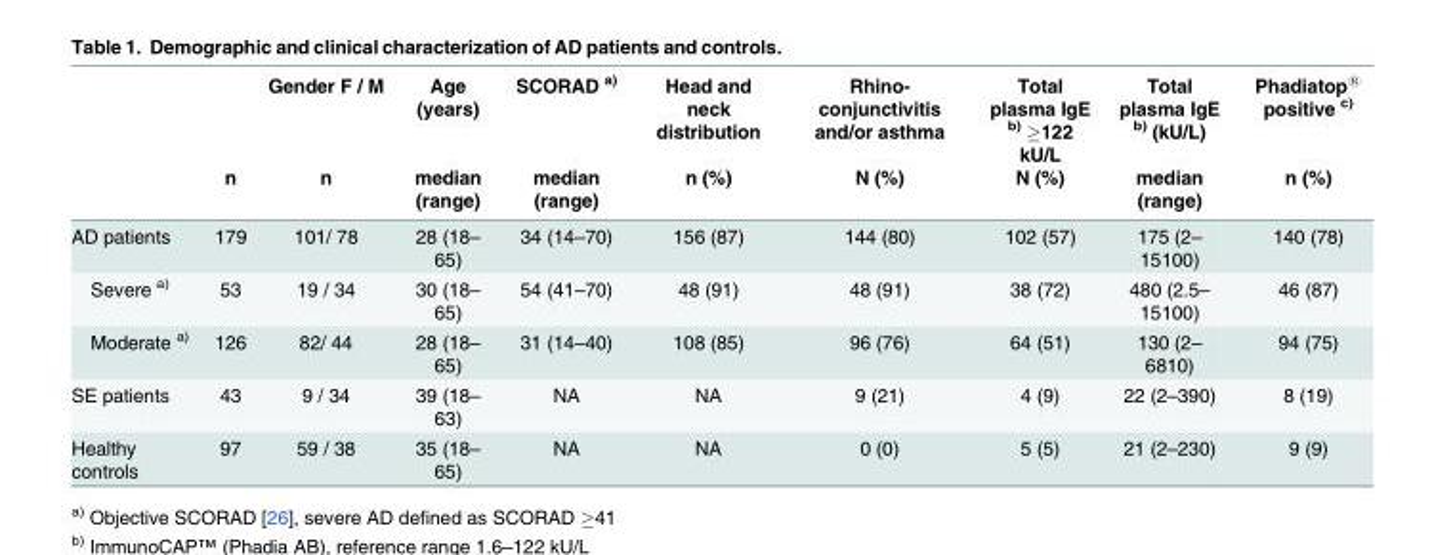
<table><thead><tr><td rowspan="2"></td><td rowspan="2">n</td><td rowspan="2">Gender F / M n</td><td rowspan="2">Age (years) median (range)</td><td rowspan="2">SCORAD <sup>a)</sup> median (range)</td><td rowspan="2">Head and neck distribution n (%)</td><td rowspan="2">Rhino- conjunctivitis and/or asthma N (%)</td><td rowspan="2">Total plasma IgE b) ≥122 kU/L N (%)</td><td rowspan="2">Total plasma IgE <sup>b)</sup> (kU/L) median (range)</td><td rowspan="2">Phadiatop® positive c) n (%)</td></tr><tr></tr></thead><tbody><tr><td>AD patients</td><td>179</td><td>101/ 78</td><td>28 (18– 65)</td><td>34 (14–70)</td><td>156 (87)</td><td>144 (80)</td><td>102 (57)</td><td>175 (2– 15100)</td><td>140 (78)</td></tr><tr><td>Severe <sup>a)</sup></td><td>53</td><td>19 / 34</td><td>30 (18– 65)</td><td>54 (41–70)</td><td>48 (91)</td><td>48 (91)</td><td>38 (72)</td><td>480 (2.5– 15100)</td><td>46 (87)</td></tr><tr><td>Moderate <sup>a)</sup></td><td>126</td><td>82/ 44</td><td>28 (18– 65)</td><td>31 (14–40)</td><td>108 (85)</td><td>96 (76)</td><td>64 (51)</td><td>130 (2– 6810)</td><td>94 (75)</td></tr><tr><td>SE patients</td><td>43</td><td>9 / 34</td><td>39 (18– 63)</td><td>NA</td><td>NA</td><td>9 (21)</td><td>4 (9)</td><td>22 (2–390)</td><td>8 (19)</td></tr><tr><td>Healthy controls</td><td>97</td><td>59 / 38</td><td>35 (18– 65)</td><td>NA</td><td>NA</td><td>0 (0)</td><td>5 (5)</td><td>21 (2–230)</td><td>9 (9)</td></tr></tbody></table>